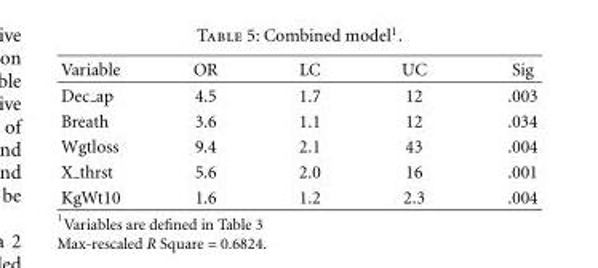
<table><thead><tr><td>Variable</td><td>OR</td><td>LC</td><td>UC</td><td>Sig</td></tr></thead><tbody><tr><td>Dec ap</td><td>4.5</td><td>1.7</td><td>12</td><td>.003</td></tr><tr><td>Breath</td><td>3.6</td><td>1.1</td><td>12</td><td>.034</td></tr><tr><td>Wgtloss</td><td>9.4</td><td>2.1</td><td>43</td><td>.004</td></tr><tr><td>X thrst</td><td>5.6</td><td>2.0</td><td>16</td><td>.001</td></tr><tr><td>KgWt10</td><td>1.6</td><td>1.2</td><td>2.3</td><td>.004</td></tr></tbody></table>